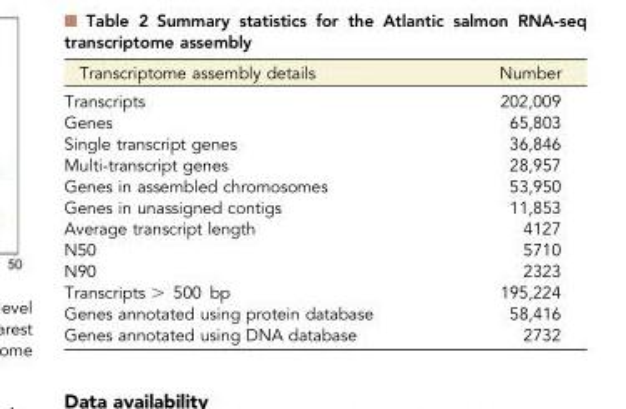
<table><thead><tr><td>Transcriptome assembly details</td><td>Number</td></tr></thead><tbody><tr><td>Transcripts</td><td>202,009</td></tr><tr><td>Genes</td><td>65,803</td></tr><tr><td>Single transcript genes</td><td>36,846</td></tr><tr><td>Multi-transcript genes</td><td>28,957</td></tr><tr><td>Genes in assembled chromosomes</td><td>53,950</td></tr><tr><td>Genes in unassigned contigs</td><td>11,853</td></tr><tr><td>Average transcript length</td><td>4127</td></tr><tr><td>N50</td><td>5710</td></tr><tr><td>N90</td><td>2323</td></tr><tr><td>Transcripts &gt; 500 bp</td><td>195,224</td></tr><tr><td>Genes annotated using protein database</td><td>58,416</td></tr><tr><td>Genes annotated using DNA database</td><td>2732</td></tr></tbody></table>